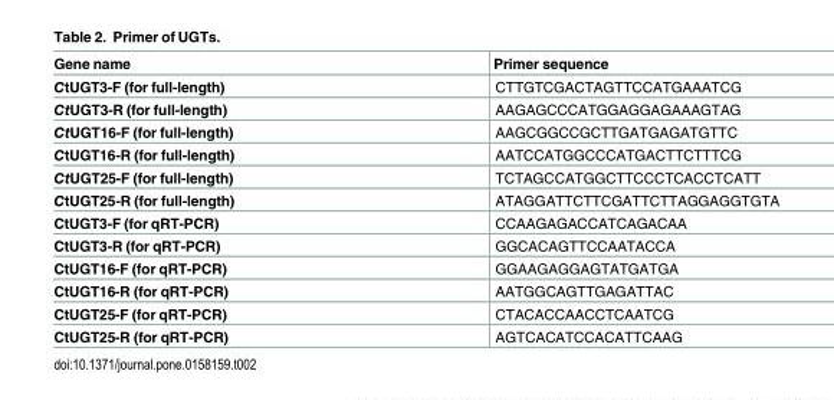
<table><thead><tr><td>Gene name</td><td>Primer sequence</td></tr></thead><tbody><tr><td>CtUGT3-F (for full-length)</td><td>CTTGTCGACTAGTTCCATGAAATCG</td></tr><tr><td>CtUGT3-R (for full-length)</td><td>AAGAGCCCATGGAGGAGAAAGTAG</td></tr><tr><td>CtUGT16-F (for full-length)</td><td>AAGCGGCCGCTTGATGAGATGTTC</td></tr><tr><td>CtUGT16-R (for full-length)</td><td>AATCCATGGCCCATGACTTCTTTCG</td></tr><tr><td>CtUGT25-F (for full-length)</td><td>TCTAGCCATGGCTTCCCTCACCTCATT</td></tr><tr><td>CtUGT25-R (for full-length)</td><td>ATAGGATTCTTCGATTCTTAGGAGGTGTA</td></tr><tr><td>CtUGT3-F (for qRT-PCR)</td><td>CCAAGAGACCATCAGACAA</td></tr><tr><td>CtUGT3-R (for qRT-PCR)</td><td>GGCACAGTTCCAATACCA</td></tr><tr><td>CtUGT16-F (for qRT-PCR)</td><td>GGAAGAGGAGTATGATGA</td></tr><tr><td>CtUGT16-R (for qRT-PCR)</td><td>AATGGCAGTTGAGATTAC</td></tr><tr><td>CtUGT25-F (for qRT-PCR)</td><td>CTACACCAACCTCAATCG</td></tr><tr><td>CtUGT25-R (for qRT-PCR)</td><td>AGTCACATCCACATTCAAG</td></tr></tbody></table>